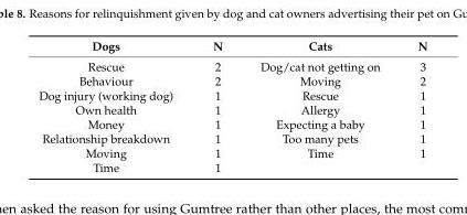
<table><thead><tr><td>Dogs</td><td>N</td><td>Cats</td><td>N</td></tr></thead><tbody><tr><td>Rescue</td><td>2</td><td>Dog/cat not getting on</td><td>3</td></tr><tr><td>Behaviour</td><td>2</td><td>Moving</td><td>2</td></tr><tr><td>Dog injury (working dog)</td><td>1</td><td>Rescue</td><td>1</td></tr><tr><td>Own health</td><td>1</td><td>Allergy</td><td>1</td></tr><tr><td>Money</td><td>1</td><td>Expecting a baby</td><td>1</td></tr><tr><td>Relationship breakdown</td><td>1</td><td>Too many pets</td><td>1</td></tr><tr><td>Moving</td><td>1</td><td>Time</td><td>1</td></tr><tr><td>Time</td><td>1</td><td></td><td></td></tr></tbody></table>